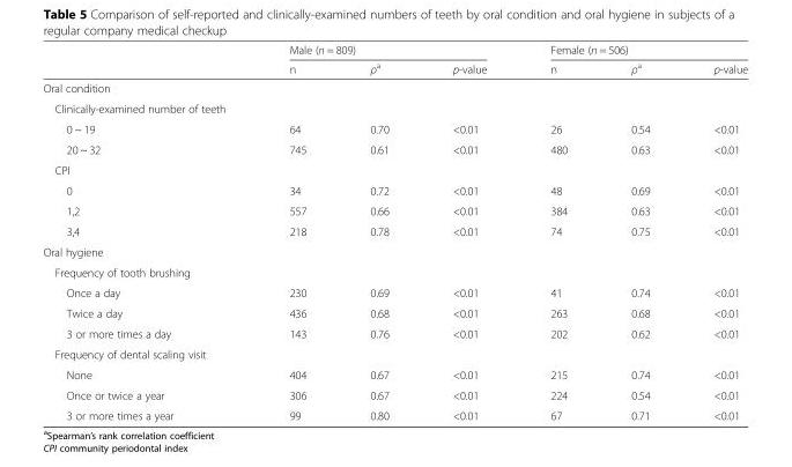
<table><thead><tr><td rowspan="2"></td><td colspan="3">Male (n = 809)</td><td colspan="3">Female (n = 506)</td></tr><tr><td>n</td><td>ρ<sup>a</sup></td><td>p-value</td><td>n</td><td>ρ<sup>a</sup></td><td>p-value</td></tr></thead><tbody><tr><td colspan="7">Oral condition</td></tr><tr><td colspan="7">Clinically-examined number of teeth</td></tr><tr><td>0 ~ 19</td><td>64</td><td>0.70</td><td>&lt;0.01</td><td>26</td><td>0.54</td><td>&lt;0.01</td></tr><tr><td>20 ~ 32</td><td>745</td><td>0.61</td><td>&lt;0.01</td><td>480</td><td>0.63</td><td>&lt;0.01</td></tr><tr><td colspan="7">CPI</td></tr><tr><td>0</td><td>34</td><td>0.72</td><td>&lt;0.01</td><td>48</td><td>0.69</td><td>&lt;0.01</td></tr><tr><td>1,2</td><td>557</td><td>0.66</td><td>&lt;0.01</td><td>384</td><td>0.63</td><td>&lt;0.01</td></tr><tr><td>3,4</td><td>218</td><td>0.78</td><td>&lt;0.01</td><td>74</td><td>0.75</td><td>&lt;0.01</td></tr><tr><td colspan="7">Oral hygiene</td></tr><tr><td colspan="7">Frequency of tooth brushing</td></tr><tr><td>Once a day</td><td>230</td><td>0.69</td><td>&lt;0.01</td><td>41</td><td>0.74</td><td>&lt;0.01</td></tr><tr><td>Twice a day</td><td>436</td><td>0.68</td><td>&lt;0.01</td><td>263</td><td>0.68</td><td>&lt;0.01</td></tr><tr><td>3 or more times a day</td><td>143</td><td>0.76</td><td>&lt;0.01</td><td>202</td><td>0.62</td><td>&lt;0.01</td></tr><tr><td colspan="7">Frequency of dental scaling visit</td></tr><tr><td>None</td><td>404</td><td>0.67</td><td>&lt;0.01</td><td>215</td><td>0.74</td><td>&lt;0.01</td></tr><tr><td>Once or twice a year</td><td>306</td><td>0.67</td><td>&lt;0.01</td><td>224</td><td>0.54</td><td>&lt;0.01</td></tr><tr><td>3 or more times a year</td><td>99</td><td>0.80</td><td>&lt;0.01</td><td>67</td><td>0.71</td><td>&lt;0.01</td></tr></tbody></table>